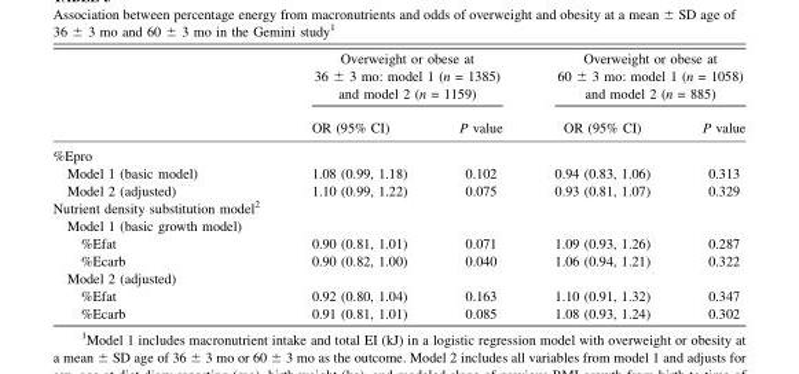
<table><thead><tr><td rowspan="2"></td><td colspan="2">Overweight or obese at 36 ± 3 mo: model 1 (n = 1385) and model 2 (n = 1159)</td><td colspan="2">Overweight or obese at 60 ± 3 mo: model 1 (n = 1058) and model 2 (n = 885)</td></tr><tr><td>OR (95% CI)</td><td>P value</td><td>OR (95% CI)</td><td>P value</td></tr></thead><tbody><tr><td colspan="5">%Epro</td></tr><tr><td>Model 1 (basic model)</td><td>1.08 (0.99, 1.18)</td><td>0.102</td><td>0.94 (0.83, 1.06)</td><td>0.313</td></tr><tr><td>Model 2 (adjusted)</td><td>1.10 (0.99, 1.22)</td><td>0.075</td><td>0.93 (0.81, 1.07)</td><td>0.329</td></tr><tr><td colspan="5">Nutrient density substitution model<sup>2</sup></td></tr><tr><td colspan="5">Model 1 (basic growth model)</td></tr><tr><td>%Efat</td><td>0.90 (0.81, 1.01)</td><td>0.071</td><td>1.09 (0.93, 1.26)</td><td>0.287</td></tr><tr><td>%Ecarb</td><td>0.90 (0.82, 1.00)</td><td>0.040</td><td>1.06 (0.94, 1.21)</td><td>0.322</td></tr><tr><td colspan="5">Model 2 (adjusted)</td></tr><tr><td>%Efat</td><td>0.92 (0.80, 1.04)</td><td>0.163</td><td>1.10 (0.91, 1.32)</td><td>0.347</td></tr><tr><td>%Ecarb</td><td>0.91 (0.81, 1.01)</td><td>0.085</td><td>1.08 (0.93, 1.24)</td><td>0.302</td></tr></tbody></table>